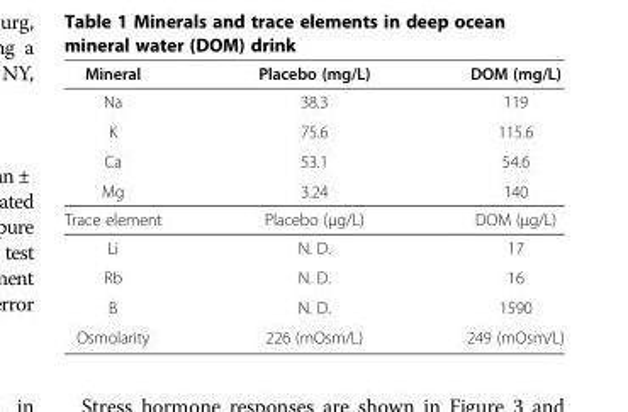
<table><thead><tr><td>Mineral</td><td>Placebo (mg/L)</td><td>DOM (mg/L)</td></tr></thead><tbody><tr><td>Na</td><td>38.3</td><td>119</td></tr><tr><td>K</td><td>75.6</td><td>115.6</td></tr><tr><td>Ca</td><td>53.1</td><td>54.6</td></tr><tr><td>Mg</td><td>3.24</td><td>140</td></tr><tr><td>Trace element</td><td>Placebo (μg/L)</td><td>DOM (μg/L)</td></tr><tr><td>Li</td><td>N. D.</td><td>17</td></tr><tr><td>Rb</td><td>N. D.</td><td>16</td></tr><tr><td>B</td><td>N. D.</td><td>1590</td></tr><tr><td>Osmolarity</td><td>226 (mOsm/L)</td><td>249 (mOsm/L)</td></tr></tbody></table>